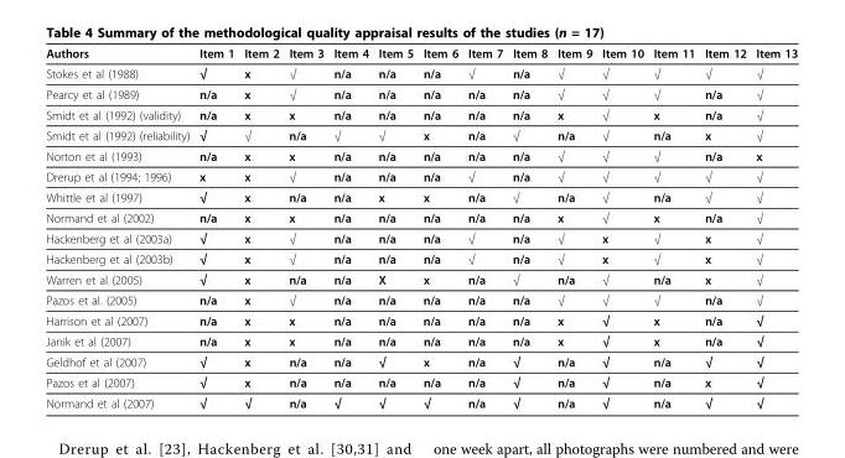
<table><thead><tr><td>Authors</td><td>Item 1</td><td>Item 2</td><td>Item 3</td><td>Item 4</td><td>Item 5</td><td>Item 6</td><td>Item 7</td><td>Item 8</td><td>Item 9</td><td>Item 10</td><td>Item 11</td><td>Item 12</td><td>Item 13</td></tr></thead><tbody><tr><td>Stokes et al (1988)</td><td>√</td><td>x</td><td>√</td><td>n/a</td><td>n/a</td><td>n/a</td><td>√</td><td>n/a</td><td>√</td><td>√</td><td>√</td><td>√</td><td>√</td></tr><tr><td>Pearcy et al (1989)</td><td>n/a</td><td>x</td><td>√</td><td>n/a</td><td>n/a</td><td>n/a</td><td>n/a</td><td>n/a</td><td>√</td><td>√</td><td>√</td><td>n/a</td><td>√</td></tr><tr><td>Smidt et al (1992) (validity)</td><td>n/a</td><td>x</td><td>x</td><td>n/a</td><td>n/a</td><td>n/a</td><td>n/a</td><td>n/a</td><td>x</td><td>√</td><td>x</td><td>n/a</td><td>√</td></tr><tr><td>Smidt et al (1992) (reliability)</td><td>√</td><td>√</td><td>n/a</td><td>√</td><td>√</td><td>x</td><td>n/a</td><td>√</td><td>n/a</td><td>√</td><td>n/a</td><td>x</td><td>√</td></tr><tr><td>Norton et al (1993)</td><td>n/a</td><td>x</td><td>x</td><td>n/a</td><td>n/a</td><td>n/a</td><td>n/a</td><td>n/a</td><td>√</td><td>√</td><td>√</td><td>n/a</td><td>x</td></tr><tr><td>Drerup et al (1994; 1996)</td><td>x</td><td>x</td><td>√</td><td>n/a</td><td>n/a</td><td>n/a</td><td>√</td><td>n/a</td><td>√</td><td>√</td><td>√</td><td>√</td><td>√</td></tr><tr><td>Whittle et al (1997)</td><td>√</td><td>x</td><td>n/a</td><td>n/a</td><td>x</td><td>x</td><td>n/a</td><td>√</td><td>n/a</td><td>√</td><td>n/a</td><td>√</td><td>√</td></tr><tr><td>Normand et al (2002)</td><td>n/a</td><td>x</td><td>x</td><td>n/a</td><td>n/a</td><td>n/a</td><td>n/a</td><td>n/a</td><td>x</td><td>√</td><td>x</td><td>n/a</td><td>√</td></tr><tr><td>Hackenberg et al (2003a)</td><td>√</td><td>x</td><td>√</td><td>n/a</td><td>n/a</td><td>n/a</td><td>√</td><td>n/a</td><td>√</td><td>x</td><td>√</td><td>x</td><td>√</td></tr><tr><td>Hackenberg et al (2003b)</td><td>√</td><td>x</td><td>√</td><td>n/a</td><td>n/a</td><td>n/a</td><td>√</td><td>n/a</td><td>√</td><td>x</td><td>√</td><td>x</td><td>√</td></tr><tr><td>Warren et al (2005)</td><td>√</td><td>x</td><td>n/a</td><td>n/a</td><td>X</td><td>x</td><td>n/a</td><td>√</td><td>n/a</td><td>√</td><td>n/a</td><td>x</td><td>√</td></tr><tr><td>Pazos et al. (2005)</td><td>n/a</td><td>x</td><td>√</td><td>n/a</td><td>n/a</td><td>n/a</td><td>n/a</td><td>n/a</td><td>√</td><td>√</td><td>√</td><td>n/a</td><td>√</td></tr><tr><td>Harrison et al (2007)</td><td>n/a</td><td>x</td><td>x</td><td>n/a</td><td>n/a</td><td>n/a</td><td>n/a</td><td>n/a</td><td>x</td><td>√</td><td>x</td><td>n/a</td><td>√</td></tr><tr><td>Janik et al (2007)</td><td>n/a</td><td>x</td><td>x</td><td>n/a</td><td>n/a</td><td>n/a</td><td>n/a</td><td>n/a</td><td>x</td><td>√</td><td>x</td><td>n/a</td><td>√</td></tr><tr><td>Geldhof et al (2007)</td><td>√</td><td>x</td><td>n/a</td><td>n/a</td><td>√</td><td>x</td><td>n/a</td><td>√</td><td>n/a</td><td>√</td><td>n/a</td><td>√</td><td>√</td></tr><tr><td>Pazos et al (2007)</td><td>√</td><td>x</td><td>n/a</td><td>n/a</td><td>n/a</td><td>n/a</td><td>n/a</td><td>√</td><td>n/a</td><td>√</td><td>n/a</td><td>x</td><td>√</td></tr><tr><td>Normand et al (2007)</td><td>√</td><td>√</td><td>n/a</td><td>√</td><td>√</td><td>√</td><td>n/a</td><td>√</td><td>n/a</td><td>√</td><td>n/a</td><td>√</td><td>√</td></tr></tbody></table>